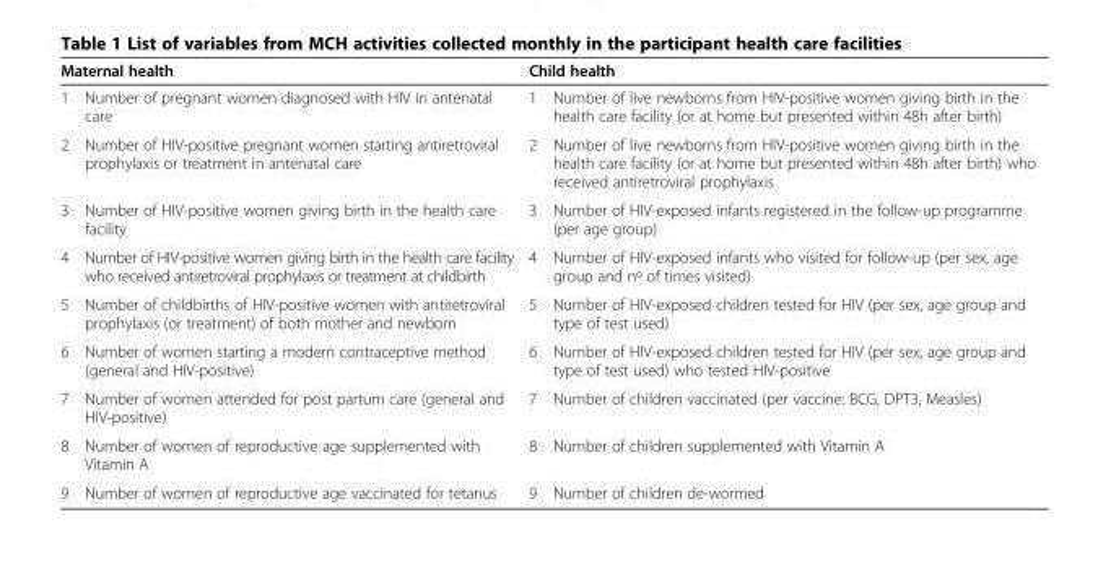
<table><thead><tr><td>Maternal health</td><td>Child health</td></tr></thead><tbody><tr><td>1 Number of pregnant women diagnosed with HIV in antenatal care</td><td>1 Number of live newborns from HIV-positive women giving birth in the health care facility (or at home but presented within 48h after birth)</td></tr><tr><td>2 Number of HIV-positive pregnant women starting antiretroviral prophylaxis or treatment in antenatal care</td><td>2 Number of live newborns from HIV-positive women giving birth in the health care facility (or at home but presented within 48h after birth) who received antiretroviral prophylaxis</td></tr><tr><td>3 Number of HIV-positive women giving birth in the health care facility</td><td>3 Number of HIV-exposed infants registered in the follow-up programme (per age group)</td></tr><tr><td>4 Number of HIV-positive women giving birth in the health care facility who received antiretroviral prophylaxis or treatment at childbirth</td><td>4 Number of HIV-exposed infants who visited for follow-up (per sex, age group and nº of times visited)</td></tr><tr><td>5 Number of childbirths of HIV-positive women with antiretroviral prophylaxis (or treatment) of both mother and newborn</td><td>5 Number of HIV-exposed children tested for HIV (per sex, age group and type of test used)</td></tr><tr><td>6 Number of women starting a modern contraceptive method (general and HIV-positive)</td><td>6 Number of HIV-exposed children tested for HIV (per sex, age group and type of test used) who tested HIV-positive</td></tr><tr><td>7 Number of women attended for post partum care (general and HIV-positive)</td><td>7 Number of children vaccinated (per vaccine: BCG, DPT3, Measles)</td></tr><tr><td>8 Number of women of reproductive age supplemented with Vitamin A</td><td>8 Number of children supplemented with Vitamin A</td></tr><tr><td>9 Number of women of reproductive age vaccinated for tetanus</td><td>9 Number of children de-wormed</td></tr></tbody></table>